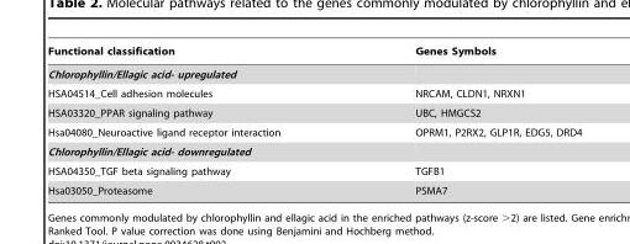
<table><thead><tr><td>Functional classification</td><td>Genes Symbols</td></tr></thead><tbody><tr><td colspan="2">Chlorophyllin/Ellagic acid- upregulated</td></tr><tr><td>HSA04514_Cell adhesion molecules</td><td>NRCAM, CLDN1, NRXN1</td></tr><tr><td>HSA03320_PPAR signaling pathway</td><td>UBC, HMGCS2</td></tr><tr><td>Hsa04080_Neuroactive ligand receptor interaction</td><td>OPRM1, P2RX2, GLP1R, EDG5, DRD4</td></tr><tr><td colspan="2">Chlorophyllin/Ellagic acid- downregulated</td></tr><tr><td>HSA04350_TGF beta signaling pathway</td><td>TGFB1</td></tr><tr><td>Hsa03050_Proteasome</td><td>PSMA7</td></tr></tbody></table>